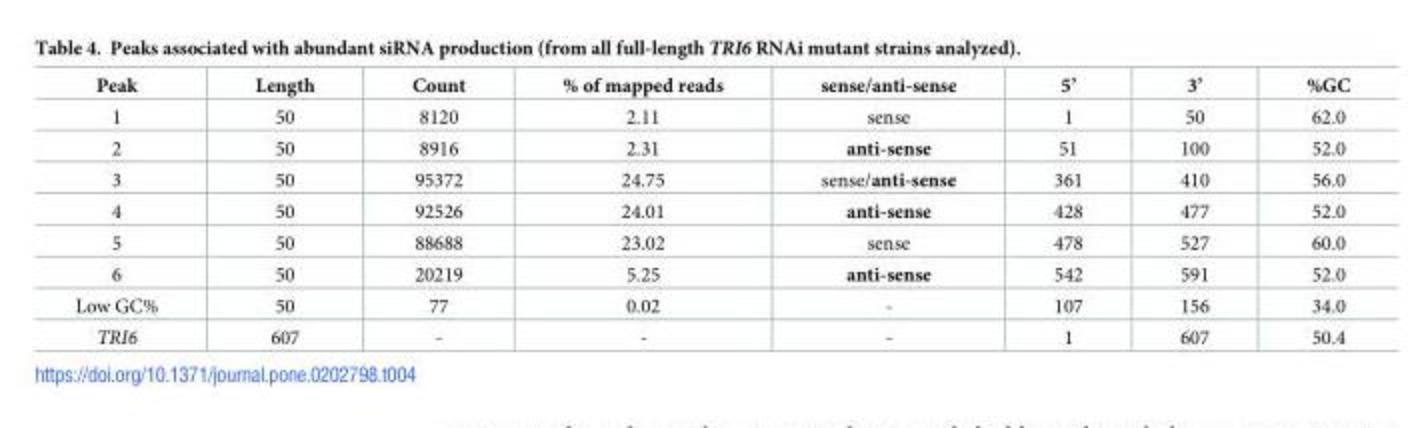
<table><thead><tr><td>Peak</td><td>Length</td><td>Count</td><td>% of mapped reads</td><td>sense/anti-sense</td><td>5’</td><td>3’</td><td>%GC</td></tr></thead><tbody><tr><td>1</td><td>50</td><td>8120</td><td>2.11</td><td>sense</td><td>1</td><td>50</td><td>62.0</td></tr><tr><td>2</td><td>50</td><td>8916</td><td>2.31</td><td>anti-sense</td><td>51</td><td>100</td><td>52.0</td></tr><tr><td>3</td><td>50</td><td>95372</td><td>24.75</td><td>sense/anti-sense</td><td>361</td><td>410</td><td>56.0</td></tr><tr><td>4</td><td>50</td><td>92526</td><td>24.01</td><td>anti-sense</td><td>428</td><td>477</td><td>52.0</td></tr><tr><td>5</td><td>50</td><td>88688</td><td>23.02</td><td>sense</td><td>478</td><td>527</td><td>60.0</td></tr><tr><td>6</td><td>50</td><td>20219</td><td>5.25</td><td>anti-sense</td><td>542</td><td>591</td><td>52.0</td></tr><tr><td>Low GC%</td><td>50</td><td>77</td><td>0.02</td><td>-</td><td>107</td><td>156</td><td>34.0</td></tr><tr><td>TRI6</td><td>607</td><td>-</td><td>-</td><td>-</td><td>1</td><td>607</td><td>50.4</td></tr></tbody></table>